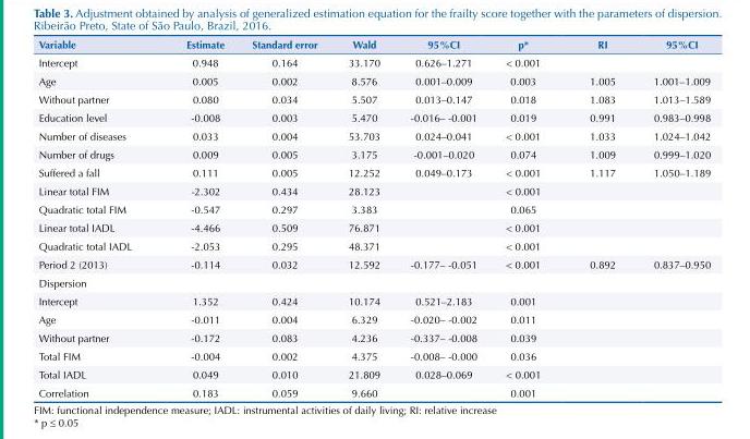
<table><thead><tr><td>Variable</td><td>Estimate</td><td>Standard error</td><td>Wald</td><td>95%CI</td><td>p*</td><td>RI</td><td>95%CI</td></tr></thead><tbody><tr><td>Intercept</td><td>0.948</td><td>0.164</td><td>33.170</td><td>0.626–1.271</td><td>&lt; 0.001</td><td></td><td></td></tr><tr><td>Age</td><td>0.005</td><td>0.002</td><td>8.576</td><td>0.001–0.009</td><td>0.003</td><td>1.005</td><td>1.001–1.009</td></tr><tr><td>Without partner</td><td>0.080</td><td>0.034</td><td>5.507</td><td>0.013–0.147</td><td>0.018</td><td>1.083</td><td>1.013–1.589</td></tr><tr><td>Education level</td><td>-0.008</td><td>0.003</td><td>5.470</td><td>-0.016– -0.001</td><td>0.019</td><td>0.991</td><td>0.983–0.998</td></tr><tr><td>Number of diseases</td><td>0.033</td><td>0.004</td><td>53.703</td><td>0.024–0.041</td><td>&lt; 0.001</td><td>1.033</td><td>1.024–1.042</td></tr><tr><td>Number of drugs</td><td>0.009</td><td>0.005</td><td>3.175</td><td>-0.001–0.020</td><td>0.074</td><td>1.009</td><td>0.999–1.020</td></tr><tr><td>Suffered a fall</td><td>0.111</td><td>0.005</td><td>12.252</td><td>0.049–0.173</td><td>&lt; 0.001</td><td>1.117</td><td>1.050–1.189</td></tr><tr><td>Linear total FIM</td><td>-2.302</td><td>0.434</td><td>28.123</td><td></td><td>&lt; 0.001</td><td></td><td></td></tr><tr><td>Quadratic total FIM</td><td>-0.547</td><td>0.297</td><td>3.383</td><td></td><td>0.065</td><td></td><td></td></tr><tr><td>Linear total IADL</td><td>-4.466</td><td>0.509</td><td>76.871</td><td></td><td>&lt; 0.001</td><td></td><td></td></tr><tr><td>Quadratic total IADL</td><td>-2.053</td><td>0.295</td><td>48.371</td><td></td><td>&lt; 0.001</td><td></td><td></td></tr><tr><td>Period 2 (2013)</td><td>-0.114</td><td>0.032</td><td>12.592</td><td>-0.177– -0.051</td><td>&lt; 0.001</td><td>0.892</td><td>0.837–0.950</td></tr><tr><td colspan="8">Dispersion</td></tr><tr><td>Intercept</td><td>1.352</td><td>0.424</td><td>10.174</td><td>0.521–2.183</td><td>0.001</td><td></td><td></td></tr><tr><td>Age</td><td>-0.011</td><td>0.004</td><td>6.329</td><td>-0.020– -0.002</td><td>0.011</td><td></td><td></td></tr><tr><td>Without partner</td><td>-0.172</td><td>0.083</td><td>4.236</td><td>-0.337– -0.008</td><td>0.039</td><td></td><td></td></tr><tr><td>Total FIM</td><td>-0.004</td><td>0.002</td><td>4.375</td><td>-0.008– -0.000</td><td>0.036</td><td></td><td></td></tr><tr><td>Total IADL</td><td>0.049</td><td>0.010</td><td>21.809</td><td>0.028–0.069</td><td>&lt; 0.001</td><td></td><td></td></tr><tr><td>Correlation</td><td>0.183</td><td>0.059</td><td>9.660</td><td></td><td>0.001</td><td></td><td></td></tr></tbody></table>